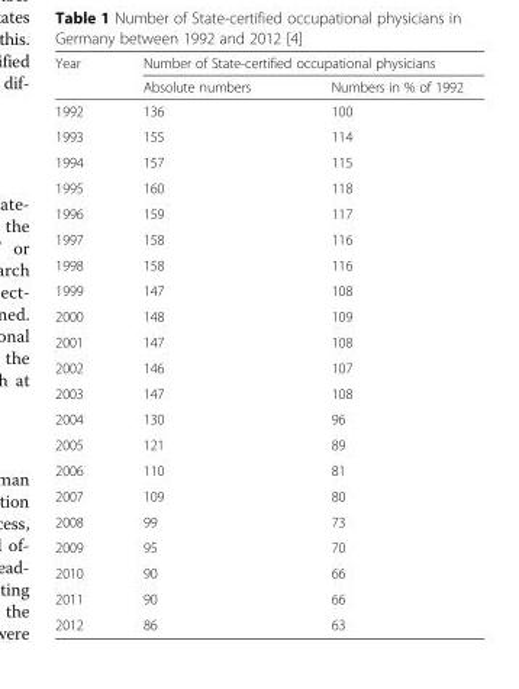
<table><thead><tr><td rowspan="2">Year</td><td colspan="2">Number of State-certified occupational physicians</td></tr><tr><td>Absolute numbers</td><td>Numbers in % of 1992</td></tr></thead><tbody><tr><td>1992</td><td>136</td><td>100</td></tr><tr><td>1993</td><td>155</td><td>114</td></tr><tr><td>1994</td><td>157</td><td>115</td></tr><tr><td>1995</td><td>160</td><td>118</td></tr><tr><td>1996</td><td>159</td><td>117</td></tr><tr><td>1997</td><td>158</td><td>116</td></tr><tr><td>1998</td><td>158</td><td>116</td></tr><tr><td>1999</td><td>147</td><td>108</td></tr><tr><td>2000</td><td>148</td><td>109</td></tr><tr><td>2001</td><td>147</td><td>108</td></tr><tr><td>2002</td><td>146</td><td>107</td></tr><tr><td>2003</td><td>147</td><td>108</td></tr><tr><td>2004</td><td>130</td><td>96</td></tr><tr><td>2005</td><td>121</td><td>89</td></tr><tr><td>2006</td><td>110</td><td>81</td></tr><tr><td>2007</td><td>109</td><td>80</td></tr><tr><td>2008</td><td>99</td><td>73</td></tr><tr><td>2009</td><td>95</td><td>70</td></tr><tr><td>2010</td><td>90</td><td>66</td></tr><tr><td>2011</td><td>90</td><td>66</td></tr><tr><td>2012</td><td>86</td><td>63</td></tr></tbody></table>